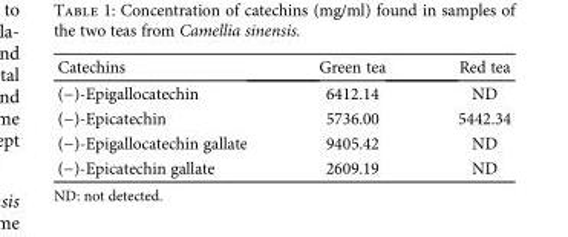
<table><thead><tr><td>Catechins</td><td>Green tea</td><td>Red tea</td></tr></thead><tbody><tr><td>(−)-Epigallocatechin</td><td>6412.14</td><td>ND</td></tr><tr><td>(−)-Epicatechin</td><td>5736.00</td><td>5442.34</td></tr><tr><td>(−)-Epigallocatechin gallate</td><td>9405.42</td><td>ND</td></tr><tr><td>(−)-Epicatechin gallate</td><td>2609.19</td><td>ND</td></tr></tbody></table>